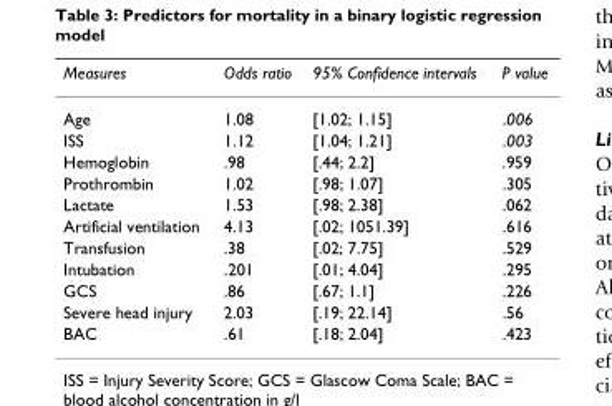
<table><thead><tr><td>Measures</td><td>Odds ratio</td><td>95% Confidence intervals</td><td>P value</td></tr></thead><tbody><tr><td>Age</td><td>1.08</td><td>[1.02; 1.15]</td><td>.006</td></tr><tr><td>ISS</td><td>1.12</td><td>[1.04; 1.21]</td><td>.003</td></tr><tr><td>Hemoglobin</td><td>.98</td><td>[.44; 2.2]</td><td>.959</td></tr><tr><td>Prothrombin</td><td>1.02</td><td>[.98; 1.07]</td><td>.305</td></tr><tr><td>Lactate</td><td>1.53</td><td>[.98; 2.38]</td><td>.062</td></tr><tr><td>Artificial ventilation</td><td>4.13</td><td>[.02; 1051.39]</td><td>.616</td></tr><tr><td>Transfusion</td><td>.38</td><td>[.02; 7.75]</td><td>.529</td></tr><tr><td>Intubation</td><td>.201</td><td>[.01; 4.04]</td><td>.295</td></tr><tr><td>GCS</td><td>.86</td><td>[.67; 1.1]</td><td>.226</td></tr><tr><td>Severe head injury</td><td>2.03</td><td>[.19; 22.14]</td><td>.56</td></tr><tr><td>BAC</td><td>.61</td><td>[.18; 2.04]</td><td>.423</td></tr></tbody></table>